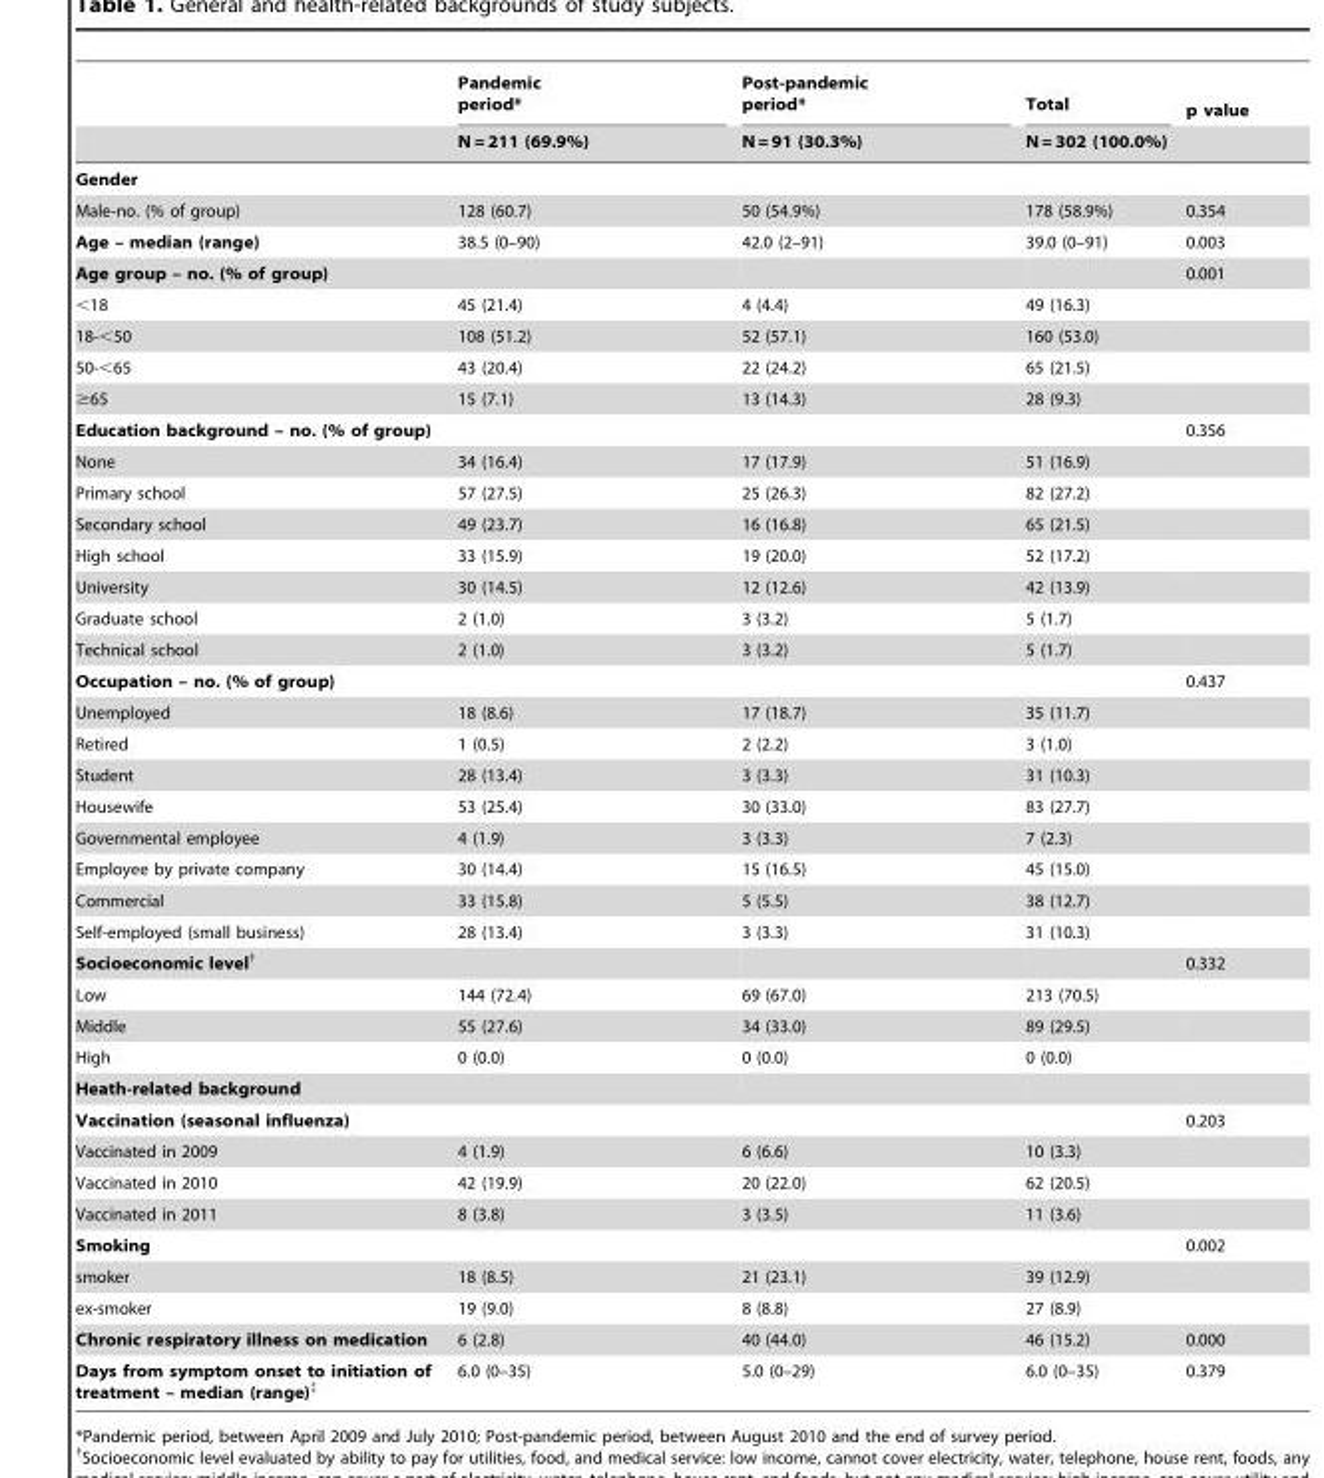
<table><thead><tr><td rowspan="2"></td><td rowspan="2">Pandemic period* N = 211 (69.9%)</td><td rowspan="2">Post-pandemic period* N = 91 (30.3%)</td><td rowspan="2">Total N = 302 (100.0%)</td><td rowspan="2">p value</td></tr><tr></tr></thead><tbody><tr><td colspan="5">Gender</td></tr><tr><td>Male-no. (% of group)</td><td>128 (60.7)</td><td>50 (54.9%)</td><td>178 (58.9%)</td><td>0.354</td></tr><tr><td>Age – median (range)</td><td>38.5 (0–90)</td><td>42.0 (2–91)</td><td>39.0 (0–91)</td><td>0.003</td></tr><tr><td>Age group – no. (% of group)</td><td></td><td></td><td></td><td>0.001</td></tr><tr><td>&lt;18</td><td>45 (21.4)</td><td>4 (4.4)</td><td>49 (16.3)</td><td></td></tr><tr><td>18-&lt;50</td><td>108 (51.2)</td><td>52 (57.1)</td><td>160 (53.0)</td><td></td></tr><tr><td>50-&lt;65</td><td>43 (20.4)</td><td>22 (24.2)</td><td>65 (21.5)</td><td></td></tr><tr><td>≥65</td><td>15 (7.1)</td><td>13 (14.3)</td><td>28 (9.3)</td><td></td></tr><tr><td>Education background – no. (% of group)</td><td></td><td></td><td></td><td>0.356</td></tr><tr><td>None</td><td>34 (16.4)</td><td>17 (17.9)</td><td>51 (16.9)</td><td></td></tr><tr><td>Primary school</td><td>57 (27.5)</td><td>25 (26.3)</td><td>82 (27.2)</td><td></td></tr><tr><td>Secondary school</td><td>49 (23.7)</td><td>16 (16.8)</td><td>65 (21.5)</td><td></td></tr><tr><td>High school</td><td>33 (15.9)</td><td>19 (20.0)</td><td>52 (17.2)</td><td></td></tr><tr><td>University</td><td>30 (14.5)</td><td>12 (12.6)</td><td>42 (13.9)</td><td></td></tr><tr><td>Graduate school</td><td>2 (1.0)</td><td>3 (3.2)</td><td>5 (1.7)</td><td></td></tr><tr><td>Technical school</td><td>2 (1.0)</td><td>3 (3.2)</td><td>5 (1.7)</td><td></td></tr><tr><td>Occupation – no. (% of group)</td><td></td><td></td><td></td><td>0.437</td></tr><tr><td>Unemployed</td><td>18 (8.6)</td><td>17 (18.7)</td><td>35 (11.7)</td><td></td></tr><tr><td>Retired</td><td>1 (0.5)</td><td>2 (2.2)</td><td>3 (1.0)</td><td></td></tr><tr><td>Student</td><td>28 (13.4)</td><td>3 (3.3)</td><td>31 (10.3)</td><td></td></tr><tr><td>Housewife</td><td>53 (25.4)</td><td>30 (33.0)</td><td>83 (27.7)</td><td></td></tr><tr><td>Governmental employee</td><td>4 (1.9)</td><td>3 (3.3)</td><td>7 (2.3)</td><td></td></tr><tr><td>Employee by private company</td><td>30 (14.4)</td><td>15 (16.5)</td><td>45 (15.0)</td><td></td></tr><tr><td>Commercial</td><td>33 (15.8)</td><td>5 (5.5)</td><td>38 (12.7)</td><td></td></tr><tr><td>Self-employed (small business)</td><td>28 (13.4)</td><td>3 (3.3)</td><td>31 (10.3)</td><td></td></tr><tr><td>Socioeconomic level†</td><td></td><td></td><td></td><td>0.332</td></tr><tr><td>Low</td><td>144 (72.4)</td><td>69 (67.0)</td><td>213 (70.5)</td><td></td></tr><tr><td>Middle</td><td>55 (27.6)</td><td>34 (33.0)</td><td>89 (29.5)</td><td></td></tr><tr><td>High</td><td>0 (0.0)</td><td>0 (0.0)</td><td>0 (0.0)</td><td></td></tr><tr><td colspan="5">Heath-related background</td></tr><tr><td>Vaccination (seasonal influenza)</td><td></td><td></td><td></td><td>0.203</td></tr><tr><td>Vaccinated in 2009</td><td>4 (1.9)</td><td>6 (6.6)</td><td>10 (3.3)</td><td></td></tr><tr><td>Vaccinated in 2010</td><td>42 (19.9)</td><td>20 (22.0)</td><td>62 (20.5)</td><td></td></tr><tr><td>Vaccinated in 2011</td><td>8 (3.8)</td><td>3 (3.5)</td><td>11 (3.6)</td><td></td></tr><tr><td>Smoking</td><td></td><td></td><td></td><td>0.002</td></tr><tr><td>smoker</td><td>18 (8.5)</td><td>21 (23.1)</td><td>39 (12.9)</td><td></td></tr><tr><td>ex-smoker</td><td>19 (9.0)</td><td>8 (8.8)</td><td>27 (8.9)</td><td></td></tr><tr><td>Chronic respiratory illness on medication</td><td>6 (2.8)</td><td>40 (44.0)</td><td>46 (15.2)</td><td>0.000</td></tr><tr><td>Days from symptom onset to initiation of treatment – median (range)‡</td><td>6.0 (0–35)</td><td>5.0 (0–29)</td><td>6.0 (0–35)</td><td>0.379</td></tr></tbody></table>